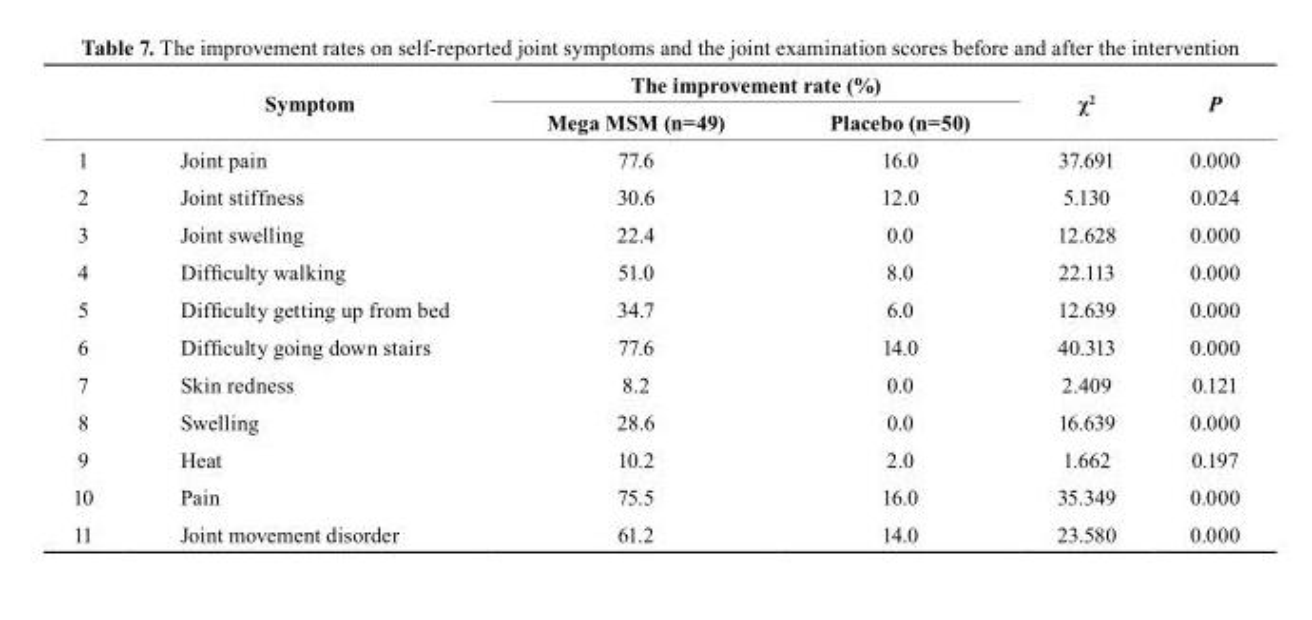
<table><thead><tr><td rowspan="2"></td><td rowspan="2">symptom</td><td colspan="2">The improvement rate (%)</td><td rowspan="2">χ<sup>2</sup></td><td rowspan="2">P</td></tr><tr><td>Mega MSM (n=49)</td><td>Placebo (n=50)</td></tr></thead><tbody><tr><td>1</td><td>Joint pain</td><td>77.6</td><td>16.0</td><td>37.691</td><td>0.000</td></tr><tr><td>2</td><td>Joint stiffness</td><td>30.6</td><td>12.0</td><td>5.130</td><td>0.024</td></tr><tr><td>3</td><td>Joint swelling</td><td>22.4</td><td>0.0</td><td>12.628</td><td>0.000</td></tr><tr><td>4</td><td>Difficulty walking</td><td>51.0</td><td>8.0</td><td>22.113</td><td>0.000</td></tr><tr><td>5</td><td>Difficulty getting up from bed</td><td>34.7</td><td>6.0</td><td>12.639</td><td>0.000</td></tr><tr><td>6</td><td>Difficulty going down stairs</td><td>77.6</td><td>14.0</td><td>40.313</td><td>0.000</td></tr><tr><td>7</td><td>Skin redness</td><td>8.2</td><td>0.0</td><td>2.409</td><td>0.121</td></tr><tr><td>8</td><td>Swelling</td><td>28.6</td><td>0.0</td><td>16.639</td><td>0.000</td></tr><tr><td>9</td><td>Heat</td><td>10.2</td><td>2.0</td><td>1.662</td><td>0.197</td></tr><tr><td>10</td><td>Pain</td><td>75.5</td><td>16.0</td><td>35.349</td><td>0.000</td></tr><tr><td>11</td><td>Joint movement disorder</td><td>61.2</td><td>14.0</td><td>23.580</td><td>0.000</td></tr></tbody></table>